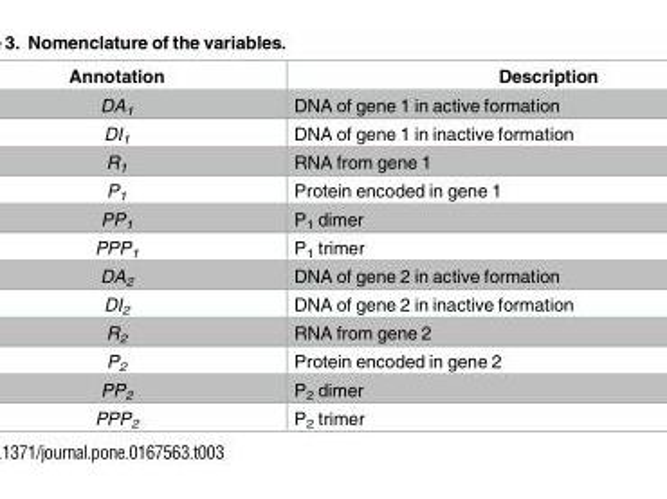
<table><thead><tr><td>Annotation</td><td>Description</td></tr></thead><tbody><tr><td>DA<sub>1</sub></td><td>DNA of gene 1 in active formation</td></tr><tr><td>DI<sub>1</sub></td><td>DNA of gene 1 in inactive formation</td></tr><tr><td>R<sub>1</sub></td><td>RNA from gene 1</td></tr><tr><td>P<sub>1</sub></td><td>Protein encoded in gene 1</td></tr><tr><td>PP<sub>1</sub></td><td>P<sub>1</sub> dimer</td></tr><tr><td>PPP<sub>1</sub></td><td>P<sub>1</sub> trimer</td></tr><tr><td>DA<sub>2</sub></td><td>DNA of gene 2 in active formation</td></tr><tr><td>DI<sub>2</sub></td><td>DNA of gene 2 in inactive formation</td></tr><tr><td>R<sub>2</sub></td><td>RNA from gene 2</td></tr><tr><td>P<sub>2</sub></td><td>Protein encoded in gene 2</td></tr><tr><td>PP<sub>2</sub></td><td>P<sub>2</sub> dimer</td></tr><tr><td>PPP<sub>2</sub></td><td>P<sub>2</sub> trimer</td></tr></tbody></table>